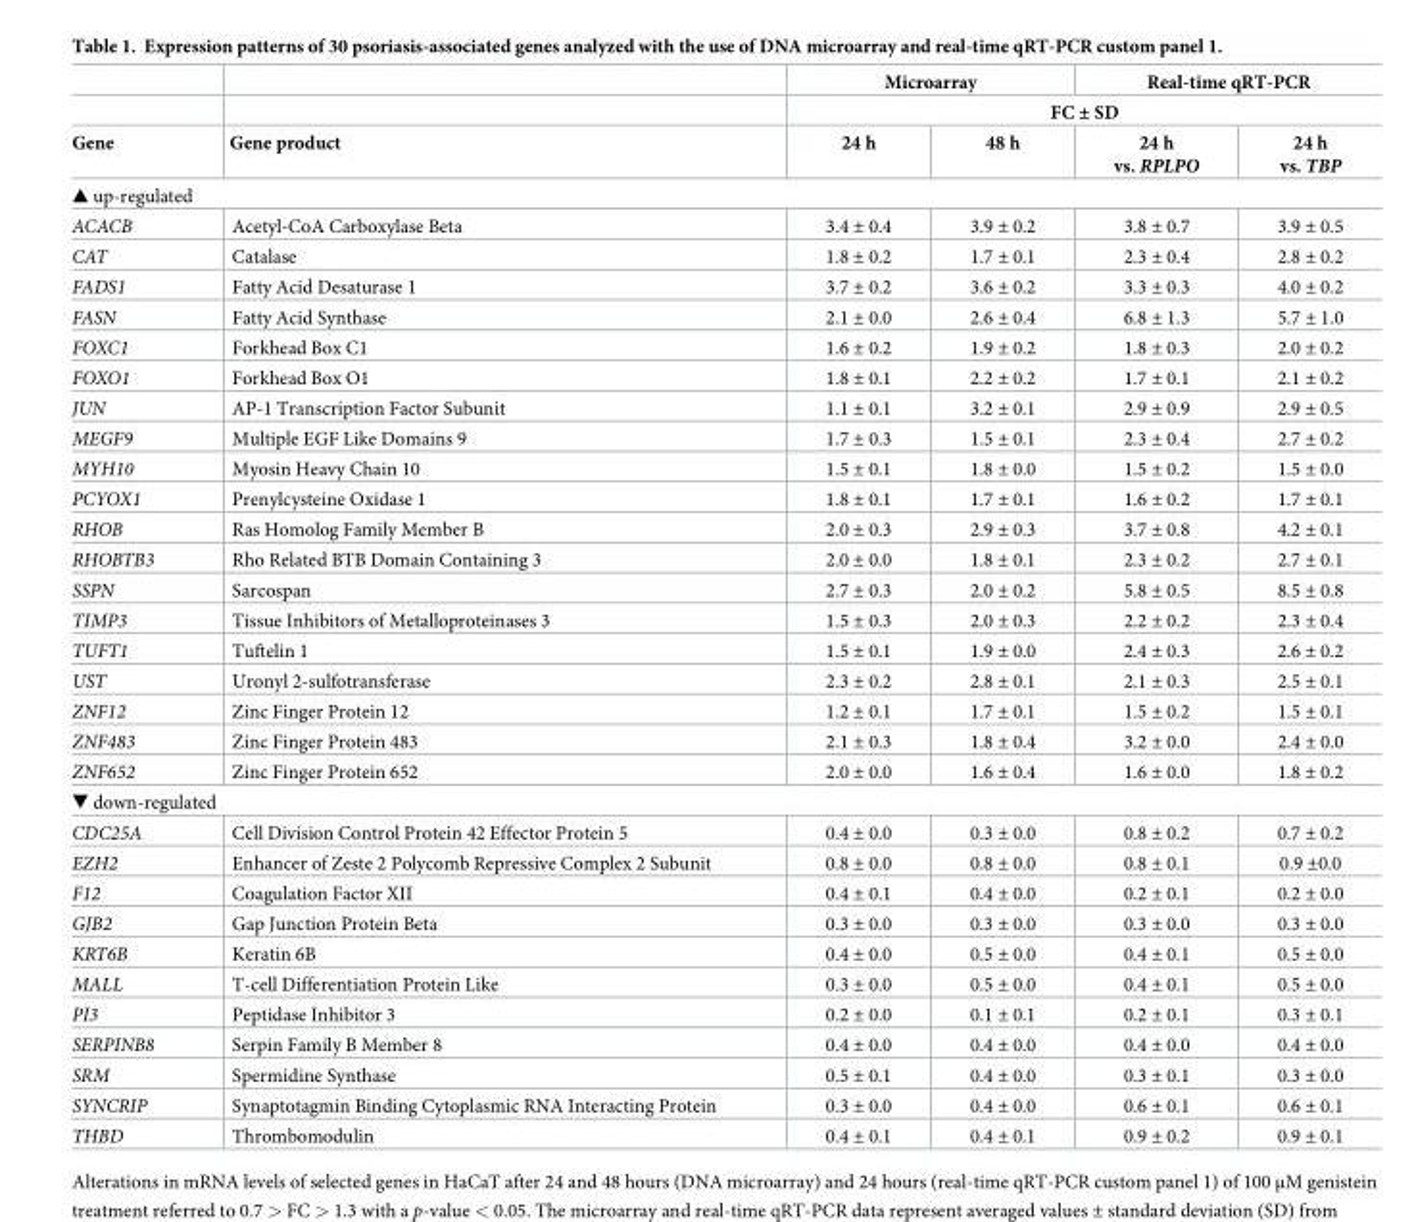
<table><thead><tr><td rowspan="3">Gene</td><td rowspan="3">Gene product</td><td colspan="2">Microarray</td><td colspan="2">Real-time qRT-PCR</td></tr><tr><td colspan="4">FC ± SD</td></tr><tr><td>24 h</td><td>48 h</td><td>24 h vs. RPLPO</td><td>24 h vs. TBP</td></tr></thead><tbody><tr><td colspan="6">▲ up-regulated</td></tr><tr><td>ACACB</td><td>Acetyl-CoA Carboxylase Beta</td><td>3.4 ± 0.4</td><td>3.9 ± 0.2</td><td>3.8 ± 0.7</td><td>3.9 ± 0.5</td></tr><tr><td>CAT</td><td>Catalase</td><td>1.8 ± 0.2</td><td>1.7 ± 0.1</td><td>2.3 ± 0.4</td><td>2.8 ± 0.2</td></tr><tr><td>FADS1</td><td>Fatty Acid Desaturase 1</td><td>3.7 ± 0.2</td><td>3.6 ± 0.2</td><td>3.3 ± 0.3</td><td>4.0 ± 0.2</td></tr><tr><td>FASN</td><td>Fatty Acid Synthase</td><td>2.1 ± 0.0</td><td>2.6 ± 0.4</td><td>6.8 ± 1.3</td><td>5.7 ± 1.0</td></tr><tr><td>FOXC1</td><td>Forkhead Box C1</td><td>1.6 ± 0.2</td><td>1.9 ± 0.2</td><td>1.8 ± 0.3</td><td>2.0 ± 0.2</td></tr><tr><td>FOXO1</td><td>Forkhead Box O1</td><td>1.8 ± 0.1</td><td>2.2 ± 0.2</td><td>1.7 ± 0.1</td><td>2.1 ± 0.2</td></tr><tr><td>JUN</td><td>AP-1 Transcription Factor Subunit</td><td>1.1 ± 0.1</td><td>3.2 ± 0.1</td><td>2.9 ± 0.9</td><td>2.9 ± 0.5</td></tr><tr><td>MEGF9</td><td>Multiple EGF Like Domains 9</td><td>1.7 ± 0.3</td><td>1.5 ± 0.1</td><td>2.3 ± 0.4</td><td>2.7 ± 0.2</td></tr><tr><td>MYH10</td><td>Myosin Heavy Chain 10</td><td>1.5 ± 0.1</td><td>1.8 ± 0.0</td><td>1.5 ± 0.2</td><td>1.5 ± 0.0</td></tr><tr><td>PCYOX1</td><td>Prenylcysteine Oxidase 1</td><td>1.8 ± 0.1</td><td>1.7 ± 0.1</td><td>1.6 ± 0.2</td><td>1.7 ± 0.1</td></tr><tr><td>RHOB</td><td>Ras Homolog Family Member B</td><td>2.0 ± 0.3</td><td>2.9 ± 0.3</td><td>3.7 ± 0.8</td><td>4.2 ± 0.1</td></tr><tr><td>RHOBTB3</td><td>Rho Related BTB Domain Containing 3</td><td>2.0 ± 0.0</td><td>1.8 ± 0.1</td><td>2.3 ± 0.2</td><td>2.7 ± 0.1</td></tr><tr><td>SSPN</td><td>Sarcospan</td><td>2.7 ± 0.3</td><td>2.0 ± 0.2</td><td>5.8 ± 0.5</td><td>8.5 ± 0.8</td></tr><tr><td>TIMP3</td><td>Tissue Inhibitors of Metalloproteinases 3</td><td>1.5 ± 0.3</td><td>2.0 ± 0.3</td><td>2.2 ± 0.2</td><td>2.3 ± 0.4</td></tr><tr><td>TUFT1</td><td>Tuftelin 1</td><td>1.5 ± 0.1</td><td>1.9 ± 0.0</td><td>2.4 ± 0.3</td><td>2.6 ± 0.2</td></tr><tr><td>UST</td><td>Uronyl 2-sulfotransferase</td><td>2.3 ± 0.2</td><td>2.8 ± 0.1</td><td>2.1 ± 0.3</td><td>2.5 ± 0.1</td></tr><tr><td>ZNF12</td><td>Zinc Finger Protein 12</td><td>1.2 ± 0.1</td><td>1.7 ± 0.1</td><td>1.5 ± 0.2</td><td>1.5 ± 0.1</td></tr><tr><td>ZNF483</td><td>Zinc Finger Protein 483</td><td>2.1 ± 0.3</td><td>1.8 ± 0.4</td><td>3.2 ± 0.0</td><td>2.4 ± 0.0</td></tr><tr><td>ZNF652</td><td>Zinc Finger Protein 652</td><td>2.0 ± 0.0</td><td>1.6 ± 0.4</td><td>1.6 ± 0.0</td><td>1.8 ± 0.2</td></tr><tr><td colspan="6">▼ down-regulated</td></tr><tr><td>CDC25A</td><td>Cell Division Control Protein 42 Effector Protein 5</td><td>0.4 ± 0.0</td><td>0.3 ± 0.0</td><td>0.8 ± 0.2</td><td>0.7 ± 0.2</td></tr><tr><td>EZH2</td><td>Enhancer of Zeste 2 Polycomb Repressive Complex 2 Subunit</td><td>0.8 ± 0.0</td><td>0.8 ± 0.0</td><td>0.8 ± 0.1</td><td>0.9 ±0.0</td></tr><tr><td>F12</td><td>Coagulation Factor XII</td><td>0.4 ± 0.1</td><td>0.4 ± 0.0</td><td>0.2 ± 0.1</td><td>0.2 ± 0.0</td></tr><tr><td>GJB2</td><td>Gap Junction Protein Beta</td><td>0.3 ± 0.0</td><td>0.3 ± 0.0</td><td>0.3 ± 0.0</td><td>0.3 ± 0.0</td></tr><tr><td>KRT6B</td><td>Keratin 6B</td><td>0.4 ± 0.0</td><td>0.5 ± 0.0</td><td>0.4 ± 0.1</td><td>0.5 ± 0.0</td></tr><tr><td>MALL</td><td>T-cell Differentiation Protein Like</td><td>0.3 ± 0.0</td><td>0.5 ± 0.0</td><td>0.4 ± 0.1</td><td>0.5 ± 0.0</td></tr><tr><td>PI3</td><td>Peptidase Inhibitor 3</td><td>0.2 ± 0.0</td><td>0.1 ± 0.1</td><td>0.2 ± 0.1</td><td>0.3 ± 0.1</td></tr><tr><td>SERPINB8</td><td>Serpin Family B Member 8</td><td>0.4 ± 0.0</td><td>0.4 ± 0.0</td><td>0.4 ± 0.0</td><td>0.4 ± 0.0</td></tr><tr><td>SRM</td><td>Spermidine Synthase</td><td>0.5 ± 0.1</td><td>0.4 ± 0.0</td><td>0.3 ± 0.1</td><td>0.3 ± 0.0</td></tr><tr><td>SYNCRIP</td><td>Synaptotagmin Binding Cytoplasmic RNA Interacting Protein</td><td>0.3 ± 0.0</td><td>0.4 ± 0.0</td><td>0.6 ± 0.1</td><td>0.6 ± 0.1</td></tr><tr><td>THBD</td><td>Thrombomodulin</td><td>0.4 ± 0.1</td><td>0.4 ± 0.1</td><td>0.9 ± 0.2</td><td>0.9 ± 0.1</td></tr></tbody></table>